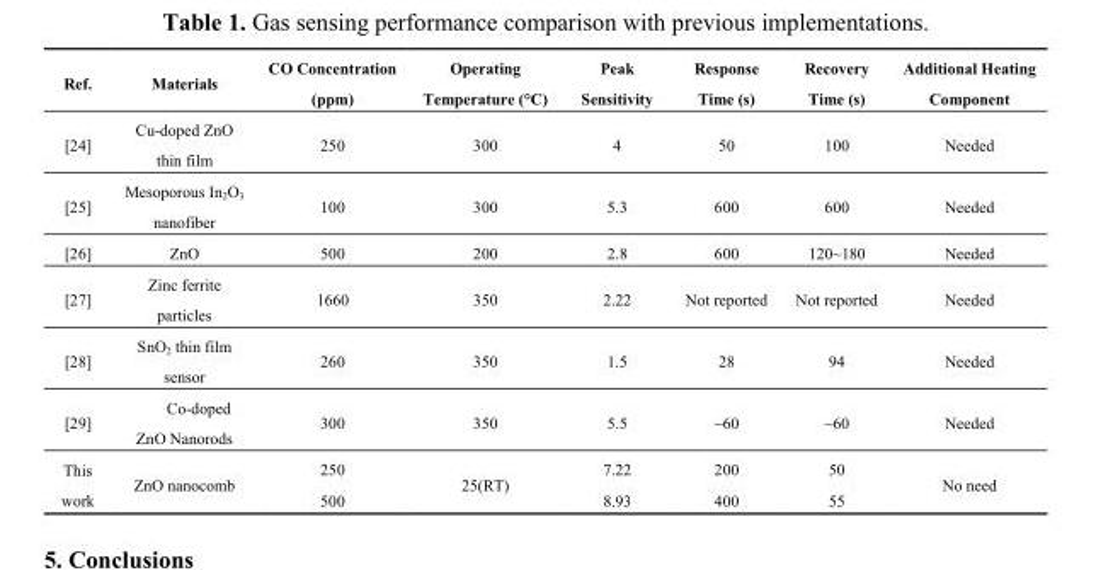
<table><thead><tr><td>Ref.</td><td>Materials</td><td>CO Concentration (ppm)</td><td>Operating Temperature (°C)</td><td>Peak Sensitivity</td><td>Response Time (s)</td><td>Recovery Time (s)</td><td>Additional Heating Component</td></tr></thead><tbody><tr><td>[24]</td><td>Cu-doped ZnO thin film</td><td>250</td><td>300</td><td>4</td><td>50</td><td>100</td><td>Needed</td></tr><tr><td>[25]</td><td>Mesoporous In<sub>2</sub>O<sub>3</sub> nanofiber</td><td>100</td><td>300</td><td>5.3</td><td>600</td><td>600</td><td>Needed</td></tr><tr><td>[26]</td><td>ZnO</td><td>500</td><td>200</td><td>2.8</td><td>600</td><td>120~180</td><td>Needed</td></tr><tr><td>[27]</td><td>Zinc ferrite particles</td><td>1660</td><td>350</td><td>2.22</td><td>Not reported</td><td>Not reported</td><td>Needed</td></tr><tr><td>[28]</td><td>SnO<sub>2</sub> thin film sensor</td><td>260</td><td>350</td><td>1.5</td><td>28</td><td>94</td><td>Needed</td></tr><tr><td>[29]</td><td>Co-doped ZnO Nanorods</td><td>300</td><td>350</td><td>5.5</td><td>~60</td><td>~60</td><td>Needed</td></tr><tr><td rowspan="2">This work</td><td rowspan="2">ZnO nanocomb</td><td>250</td><td rowspan="2">25(RT)</td><td>7.22</td><td>200</td><td>50</td><td rowspan="2">No need</td></tr><tr><td>500</td><td>8.93</td><td>400</td><td>55</td></tr></tbody></table>